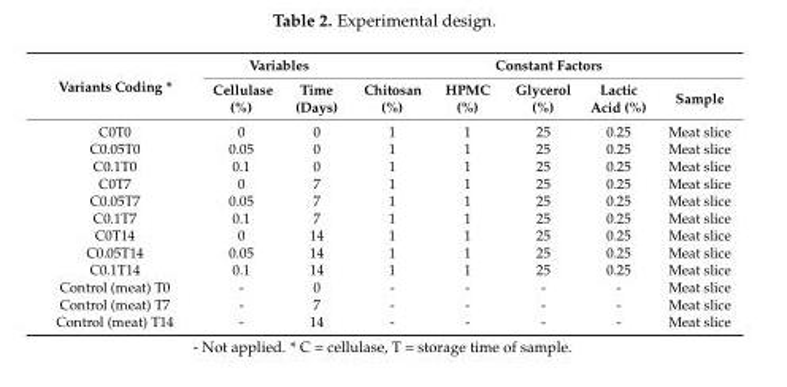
<table><thead><tr><td rowspan="2">Variants Coding *</td><td colspan="2">Variables</td><td colspan="5">Constant Factors</td></tr><tr><td>Cellulase (%)</td><td>Time (Days)</td><td>Chitosan (%)</td><td>HPMC (%)</td><td>Glycerol (%)</td><td>Lactic Acid (%)</td><td>Sample</td></tr></thead><tbody><tr><td>C0T0</td><td>0</td><td>0</td><td>1</td><td>1</td><td>25</td><td>0.25</td><td>Meat slice</td></tr><tr><td>C0.05T0</td><td>0.05</td><td>0</td><td>1</td><td>1</td><td>25</td><td>0.25</td><td>Meat slice</td></tr><tr><td>C0.1T0</td><td>0.1</td><td>0</td><td>1</td><td>1</td><td>25</td><td>0.25</td><td>Meat slice</td></tr><tr><td>C0T7</td><td>0</td><td>7</td><td>1</td><td>1</td><td>25</td><td>0.25</td><td>Meat slice</td></tr><tr><td>C0.05T7</td><td>0.05</td><td>7</td><td>1</td><td>1</td><td>25</td><td>0.25</td><td>Meat slice</td></tr><tr><td>C0.1T7</td><td>0.1</td><td>7</td><td>1</td><td>1</td><td>25</td><td>0.25</td><td>Meat slice</td></tr><tr><td>C0T14</td><td>0</td><td>14</td><td>1</td><td>1</td><td>25</td><td>0.25</td><td>Meat slice</td></tr><tr><td>C0.05T14</td><td>0.05</td><td>14</td><td>1</td><td>1</td><td>25</td><td>0.25</td><td>Meat slice</td></tr><tr><td>C0.1T14</td><td>0.1</td><td>14</td><td>1</td><td>1</td><td>25</td><td>0.25</td><td>Meat slice</td></tr><tr><td>Control (meat) T0</td><td>-</td><td>0</td><td>-</td><td>-</td><td>-</td><td>-</td><td>Meat slice</td></tr><tr><td>Control (meat) T7</td><td>-</td><td>7</td><td>-</td><td>-</td><td>-</td><td>-</td><td>Meat slice</td></tr><tr><td>Control (meat) T14</td><td>-</td><td>14</td><td>-</td><td>-</td><td>-</td><td>-</td><td>Meat slice</td></tr></tbody></table>